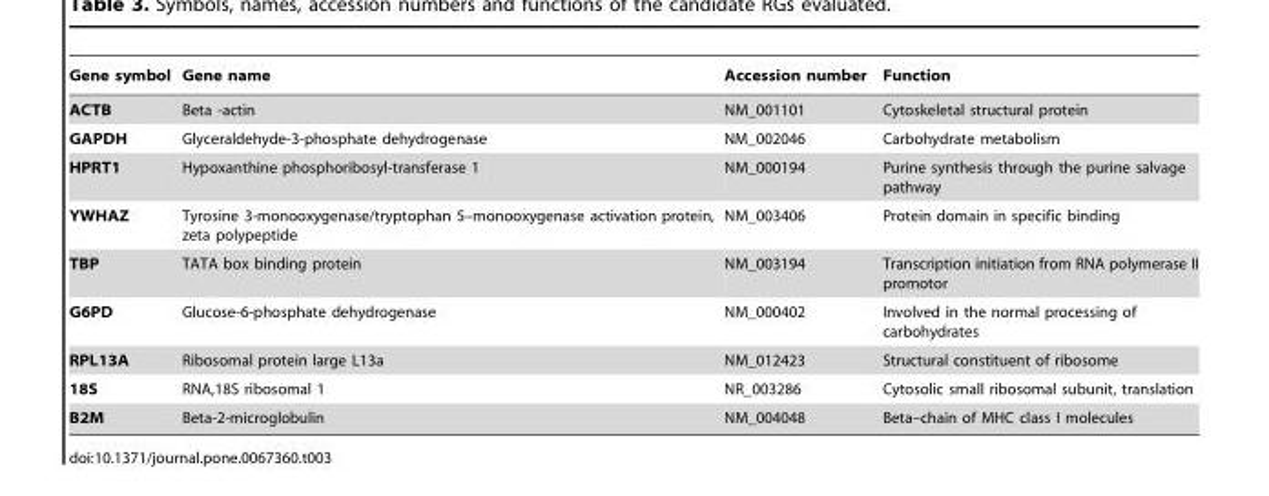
<table><thead><tr><td>Gene symbol</td><td>Gene name</td><td>Accession number</td><td>Function</td></tr></thead><tbody><tr><td>ACTB</td><td>Beta -actin</td><td>NM_001101</td><td>Cytoskeletal structural protein</td></tr><tr><td>GAPDH</td><td>Glyceraldehyde-3-phosphate dehydrogenase</td><td>NM_002046</td><td>Carbohydrate metabolism</td></tr><tr><td>HPRT1</td><td>Hypoxanthine phosphoribosyl-transferase 1</td><td>NM_000194</td><td>Purine synthesis through the purine salvage pathway</td></tr><tr><td>YWHAZ</td><td>Tyrosine 3-monooxygenase/tryptophan 5–monooxygenase activation protein, zeta polypeptide</td><td>NM_003406</td><td>Protein domain in specific binding</td></tr><tr><td>TBP</td><td>TATA box binding protein</td><td>NM_003194</td><td>Transcription initiation from RNA polymerase II promotor</td></tr><tr><td>G6PD</td><td>Glucose-6-phosphate dehydrogenase</td><td>NM_000402</td><td>Involved in the normal processing of carbohydrates</td></tr><tr><td>RPL13A</td><td>Ribosomal protein large L13a</td><td>NM_012423</td><td>Structural constituent of ribosome</td></tr><tr><td>18S</td><td>RNA,18S ribosomal 1</td><td>NR_003286</td><td>Cytosolic small ribosomal subunit, translation</td></tr><tr><td>B2M</td><td>Beta-2-microglobulin</td><td>NM_004048</td><td>Beta–chain of MHC class I molecules</td></tr></tbody></table>